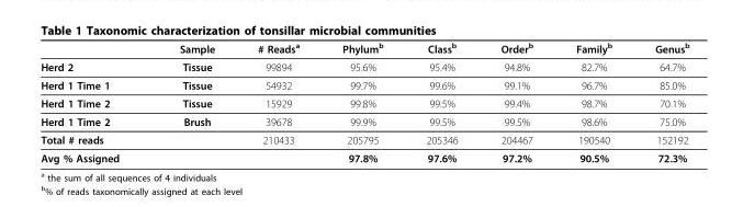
<table><thead><tr><td></td><td>Sample</td><td># Reads<sup>a</sup></td><td>Phylum<sup>b</sup></td><td>Class<sup>b</sup></td><td>Order<sup>b</sup></td><td>Family<sup>b</sup></td><td>Genus<sup>b</sup></td></tr></thead><tbody><tr><td>Herd 2</td><td>Tissue</td><td>99894</td><td>95.6%</td><td>95.4%</td><td>94.8%</td><td>82.7%</td><td>64.7%</td></tr><tr><td>Herd 1 Time 1</td><td>Tissue</td><td>54932</td><td>99.7%</td><td>99.6%</td><td>99.1%</td><td>96.7%</td><td>85.0%</td></tr><tr><td>Herd 1 Time 2</td><td>Tissue</td><td>15929</td><td>99.8%</td><td>99.5%</td><td>99.4%</td><td>98.7%</td><td>70.1%</td></tr><tr><td>Herd 1 Time 2</td><td>Brush</td><td>39678</td><td>99.9%</td><td>99.5%</td><td>99.5%</td><td>98.6%</td><td>75.0%</td></tr><tr><td>Total # reads</td><td></td><td>210433</td><td>205795</td><td>205346</td><td>204467</td><td>190540</td><td>152192</td></tr><tr><td>Avg % Assigned</td><td></td><td></td><td>97.8%</td><td>97.6%</td><td>97.2%</td><td>90.5%</td><td>72.3%</td></tr></tbody></table>